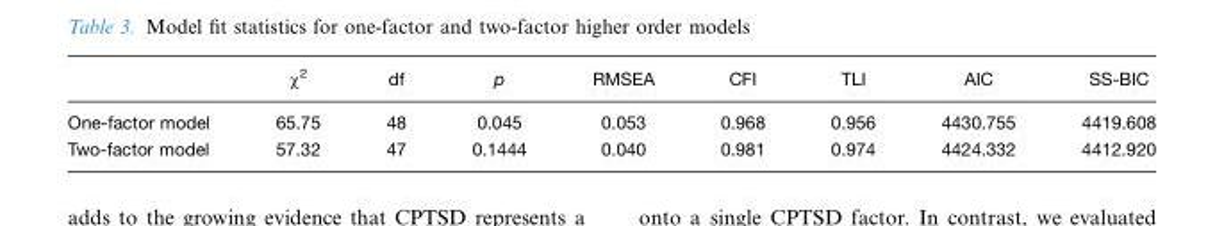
<table><thead><tr><td></td><td>χ<sup>2</sup></td><td>df</td><td>p</td><td>RMSEA</td><td>CFI</td><td>TLI</td><td>AIC</td><td>SS-BIC</td></tr></thead><tbody><tr><td>One-factor model</td><td>65.75</td><td>48</td><td>0.045</td><td>0.053</td><td>0.968</td><td>0.956</td><td>4430.755</td><td>4419.608</td></tr><tr><td>Two-factor model</td><td>57.32</td><td>47</td><td>0.1444</td><td>0.040</td><td>0.981</td><td>0.974</td><td>4424.332</td><td>4412.920</td></tr></tbody></table>